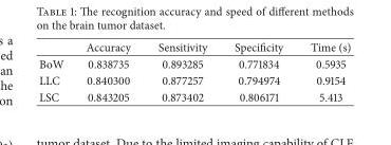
<table><thead><tr><td></td><td>Accuracy</td><td>Sensitivity</td><td>Specificity</td><td>Time (s)</td></tr></thead><tbody><tr><td>BoW</td><td>0.838735</td><td>0.893285</td><td>0.771834</td><td>0.5935</td></tr><tr><td>LLC</td><td>0.840300</td><td>0.877257</td><td>0.794974</td><td>0.9154</td></tr><tr><td>LSC</td><td>0.843205</td><td>0.873402</td><td>0.806171</td><td>5.413</td></tr></tbody></table>